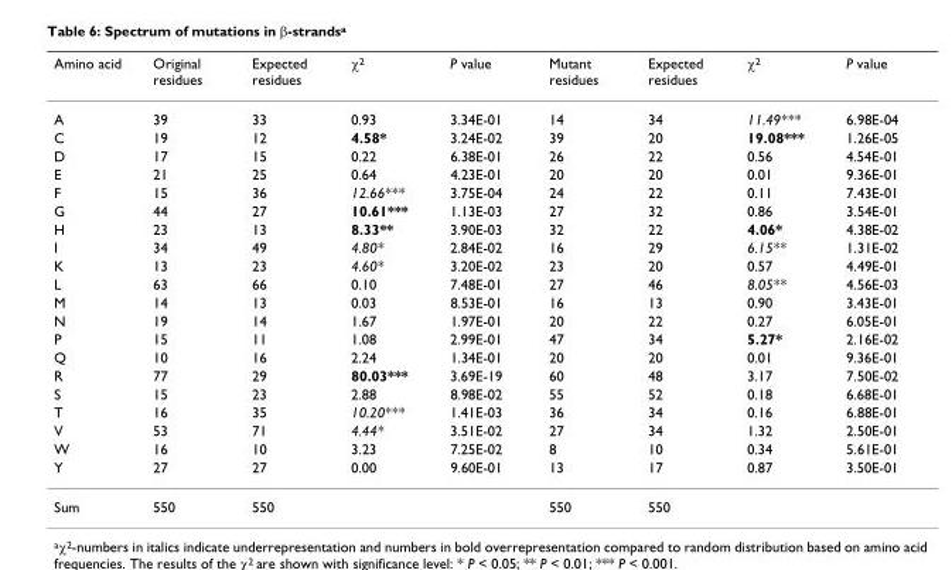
<table><thead><tr><td>Amino acid</td><td>Original residues</td><td>Expected residues</td><td>χ<sup>2</sup></td><td>P value</td><td>Mutant residues</td><td>Expected residues</td><td>χ<sup>2</sup></td><td>P value</td></tr></thead><tbody><tr><td>A</td><td>39</td><td>33</td><td>0.93</td><td>3.34E-01</td><td>14</td><td>34</td><td>11.49***</td><td>6.98E-04</td></tr><tr><td>C</td><td>19</td><td>12</td><td>4.58*</td><td>3.24E-02</td><td>39</td><td>20</td><td>19.08***</td><td>1.26E-05</td></tr><tr><td>D</td><td>17</td><td>15</td><td>0.22</td><td>6.38E-01</td><td>26</td><td>22</td><td>0.56</td><td>4.54E-01</td></tr><tr><td>E</td><td>21</td><td>25</td><td>0.64</td><td>4.23E-01</td><td>20</td><td>20</td><td>0.01</td><td>9.36E-01</td></tr><tr><td>F</td><td>15</td><td>36</td><td>12.66***</td><td>3.75E-04</td><td>24</td><td>22</td><td>0.11</td><td>7.43E-01</td></tr><tr><td>G</td><td>44</td><td>27</td><td>10.61***</td><td>1.13E-03</td><td>27</td><td>32</td><td>0.86</td><td>3.54E-01</td></tr><tr><td>H</td><td>23</td><td>13</td><td>8.33**</td><td>3.90E-03</td><td>32</td><td>22</td><td>4.06*</td><td>4.38E-02</td></tr><tr><td>I</td><td>34</td><td>49</td><td>4.80*</td><td>2.84E-02</td><td>16</td><td>29</td><td>6.15**</td><td>1.31E-02</td></tr><tr><td>K</td><td>13</td><td>23</td><td>4.60*</td><td>3.20E-02</td><td>23</td><td>20</td><td>0.57</td><td>4.49E-01</td></tr><tr><td>L</td><td>63</td><td>66</td><td>0.10</td><td>7.48E-01</td><td>27</td><td>46</td><td>8.05**</td><td>4.56E-03</td></tr><tr><td>M</td><td>14</td><td>13</td><td>0.03</td><td>8.53E-01</td><td>16</td><td>13</td><td>0.90</td><td>3.43E-01</td></tr><tr><td>N</td><td>19</td><td>14</td><td>1.67</td><td>1.97E-01</td><td>20</td><td>22</td><td>0.27</td><td>6.05E-01</td></tr><tr><td>P</td><td>15</td><td>11</td><td>1.08</td><td>2.99E-01</td><td>47</td><td>34</td><td>5.27*</td><td>2.16E-02</td></tr><tr><td>Q</td><td>10</td><td>16</td><td>2.24</td><td>1.34E-01</td><td>20</td><td>20</td><td>0.01</td><td>9.36E-01</td></tr><tr><td>R</td><td>77</td><td>29</td><td>80.03***</td><td>3.69E-19</td><td>60</td><td>48</td><td>3.17</td><td>7.50E-02</td></tr><tr><td>S</td><td>15</td><td>23</td><td>2.88</td><td>8.98E-02</td><td>55</td><td>52</td><td>0.18</td><td>6.68E-01</td></tr><tr><td>T</td><td>16</td><td>35</td><td>10.20***</td><td>1.41E-03</td><td>36</td><td>34</td><td>0.16</td><td>6.88E-01</td></tr><tr><td>V</td><td>53</td><td>71</td><td>4.44*</td><td>3.51E-02</td><td>27</td><td>34</td><td>1.32</td><td>2.50E-01</td></tr><tr><td>W</td><td>16</td><td>10</td><td>3.23</td><td>7.25E-02</td><td>8</td><td>10</td><td>0.34</td><td>5.61E-01</td></tr><tr><td>Y</td><td>27</td><td>27</td><td>0.00</td><td>9.60E-01</td><td>13</td><td>17</td><td>0.87</td><td>3.50E-01</td></tr><tr><td>Sum</td><td>550</td><td>550</td><td></td><td></td><td>550</td><td>550</td><td></td><td></td></tr></tbody></table>